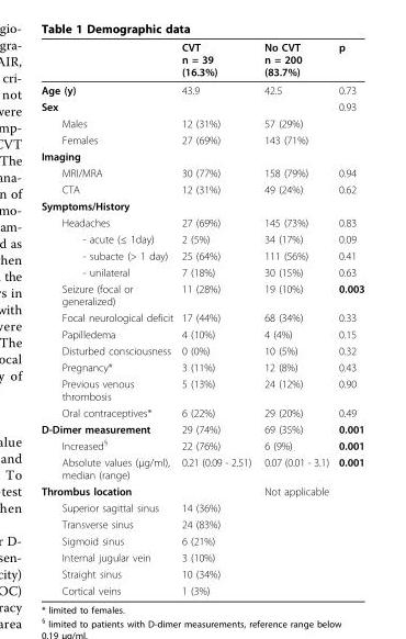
<table><thead><tr><td></td><td>CVT n = 39 (16.3%)</td><td>No CVT n = 200 (83.7%)</td><td>p</td></tr></thead><tbody><tr><td>Age (y)</td><td>43.9</td><td>42.5</td><td>0.73</td></tr><tr><td>Sex</td><td></td><td></td><td>0.93</td></tr><tr><td>Males</td><td>12 (31%)</td><td>57 (29%)</td><td></td></tr><tr><td>Females</td><td>27 (69%)</td><td>143 (71%)</td><td></td></tr><tr><td colspan="4">Imaging</td></tr><tr><td>MRI/MRA</td><td>30 (77%)</td><td>158 (79%)</td><td>0.94</td></tr><tr><td>CTA</td><td>12 (31%)</td><td>49 (24%)</td><td>0.62</td></tr><tr><td colspan="4">Symptoms/History</td></tr><tr><td>Headaches</td><td>27 (69%)</td><td>145 (73%)</td><td>0.83</td></tr><tr><td>- acute (≤ 1day)</td><td>2 (5%)</td><td>34 (17%)</td><td>0.09</td></tr><tr><td>- subacte (&gt; 1 day)</td><td>25 (64%)</td><td>111 (56%)</td><td>0.41</td></tr><tr><td>- unilateral</td><td>7 (18%)</td><td>30 (15%)</td><td>0.63</td></tr><tr><td>Seizure (focal or generalized)</td><td>11 (28%)</td><td>19 (10%)</td><td>0.003</td></tr><tr><td>Focal neurological deficit</td><td>17 (44%)</td><td>68 (34%)</td><td>0.33</td></tr><tr><td>Papilledema</td><td>4 (10%)</td><td>4 (4%)</td><td>0.15</td></tr><tr><td>Disturbed consciousness</td><td>0 (0%)</td><td>10 (5%)</td><td>0.32</td></tr><tr><td>Pregnancy*</td><td>3 (11%)</td><td>12 (8%)</td><td>0.43</td></tr><tr><td>Previous venous thrombosis</td><td>5 (13%)</td><td>24 (12%)</td><td>0.90</td></tr><tr><td>Oral contraceptives*</td><td>6 (22%)</td><td>29 (20%)</td><td>0.49</td></tr><tr><td>D-Dimer measurement</td><td>29 (74%)</td><td>69 (35%)</td><td>0.001</td></tr><tr><td>Increased<sup>§</sup></td><td>22 (76%)</td><td>6 (9%)</td><td>0.001</td></tr><tr><td>Absolute values (μg/ml), median (range)</td><td>0.21 (0.09 - 2.51)</td><td>0.07 (0.01 - 3.1)</td><td>0.001</td></tr><tr><td>Thrombus location</td><td></td><td>Not applicable</td><td></td></tr><tr><td>Superior sagittal sinus</td><td>14 (36%)</td><td></td><td></td></tr><tr><td>Transverse sinus</td><td>24 (83%)</td><td></td><td></td></tr><tr><td>Sigmoid sinus</td><td>6 (21%)</td><td></td><td></td></tr><tr><td>Internal jugular vein</td><td>3 (10%)</td><td></td><td></td></tr><tr><td>Straight sinus</td><td>10 (34%)</td><td></td><td></td></tr><tr><td>Cortical veins</td><td>1 (3%)</td><td></td><td></td></tr></tbody></table>